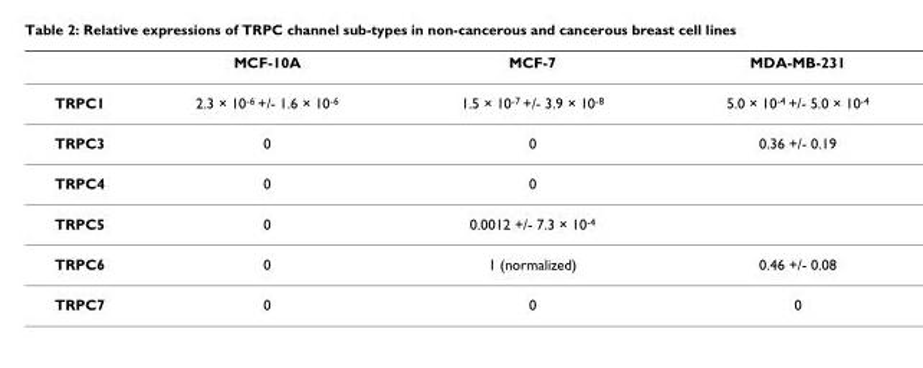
<table><thead><tr><td></td><td>MCF-10A</td><td>MCF-7</td><td>MDA-MB-231</td></tr></thead><tbody><tr><td>TRPC1</td><td>2.3 × 10<sup>-6</sup> +/- 1.6 × 10<sup>-6</sup></td><td>1.5 × 10<sup>-7</sup> +/- 3.9 × 10<sup>-8</sup></td><td>5.0 × 10<sup>-4</sup> +/- 5.0 × 10<sup>-4</sup></td></tr><tr><td>TRPC3</td><td>0</td><td>0</td><td>0.36 +/- 0.19</td></tr><tr><td>TRPC4</td><td>0</td><td>0</td><td></td></tr><tr><td>TRPC5</td><td>0</td><td>0.0012 +/- 7.3 × 10<sup>-4</sup></td><td></td></tr><tr><td>TRPC6</td><td>0</td><td>1 (normalized)</td><td>0.46 +/- 0.08</td></tr><tr><td>TRPC7</td><td>0</td><td>0</td><td>0</td></tr></tbody></table>